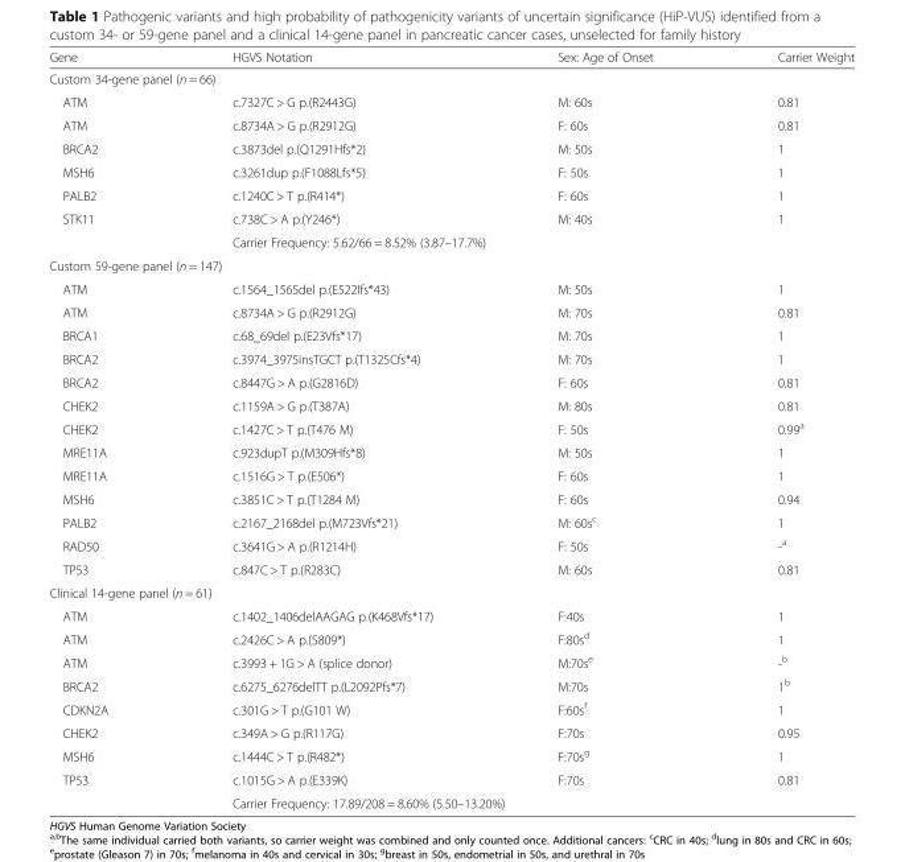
<table><thead><tr><td>Gene</td><td>HGVS Notation</td><td>Sex: Age of Onset</td><td>Carrier Weight</td></tr></thead><tbody><tr><td colspan="4">Custom 34-gene panel (n = 66)</td></tr><tr><td>ATM</td><td>c.7327C &gt; G p.(R2443G)</td><td>M: 60s</td><td>0.81</td></tr><tr><td>ATM</td><td>c.8734A &gt; G p.(R2912G)</td><td>F: 60s</td><td>0.81</td></tr><tr><td>BRCA2</td><td>c.3873del p.(Q1291Hfs*2)</td><td>M: 50s</td><td>1</td></tr><tr><td>MSH6</td><td>c.3261dup p.(F1088Lfs*5)</td><td>F: 50s</td><td>1</td></tr><tr><td>PALB2</td><td>c.1240C &gt; T p.(R414*)</td><td>F: 60s</td><td>1</td></tr><tr><td rowspan="2">STK11</td><td>c.738C &gt; A p.(Y246*)</td><td>M: 40s</td><td>1</td></tr><tr><td colspan="3">Carrier Frequency: 5.62/66 = 8.52% (3.87–17.7%)</td></tr><tr><td colspan="4">Custom 59-gene panel (n = 147)</td></tr><tr><td>ATM</td><td>c.1564_1565del p.(E522Ifs*43)</td><td>M: 50s</td><td>1</td></tr><tr><td>ATM</td><td>c.8734A &gt; G p.(R2912G)</td><td>M: 70s</td><td>0.81</td></tr><tr><td>BRCA1</td><td>c.68_69del p.(E23Vfs*17)</td><td>M: 70s</td><td>1</td></tr><tr><td>BRCA2</td><td>c.3974_3975insTGCT p.(T1325Cfs*4)</td><td>M: 70s</td><td>1</td></tr><tr><td>BRCA2</td><td>c.8447G &gt; A p.(G2816D)</td><td>F: 60s</td><td>0.81</td></tr><tr><td>CHEK2</td><td>c.1159A &gt; G p.(T387A)</td><td>M: 80s</td><td>0.81</td></tr><tr><td>CHEK2</td><td>c.1427C &gt; T p.(T476 M)</td><td>F: 50s</td><td>0.99<sup>a</sup></td></tr><tr><td>MRE11A</td><td>c.923dupT p.(M309Hfs*8)</td><td>M: 50s</td><td>1</td></tr><tr><td>MRE11A</td><td>c.1516G &gt; T p.(E506*)</td><td>F: 60s</td><td>1</td></tr><tr><td>MSH6</td><td>c.3851C &gt; T p.(T1284 M)</td><td>F: 60s</td><td>0.94</td></tr><tr><td>PALB2</td><td>c.2167_2168del p.(M723Vfs*21)</td><td>M: 60s<sup>c</sup></td><td>1</td></tr><tr><td>RAD50</td><td>c.3641G &gt; A p.(R1214H)</td><td>F: 50s</td><td>-<sup>a</sup></td></tr><tr><td>TP53</td><td>c.847C &gt; T p.(R283C)</td><td>M: 60s</td><td>0.81</td></tr><tr><td colspan="4">Clinical 14-gene panel (n = 61)</td></tr><tr><td>ATM</td><td>c.1402_1406delAAGAG p.(K468Vfs*17)</td><td>F:40s</td><td>1</td></tr><tr><td>ATM</td><td>c.2426C &gt; A p.(S809*)</td><td>F:80s<sup>d</sup></td><td>1</td></tr><tr><td>ATM</td><td>c.3993 + 1G &gt; A (splice donor)</td><td>M:70s<sup>e</sup></td><td>-<sup>b</sup></td></tr><tr><td>BRCA2</td><td>c.6275_6276delTT p.(L2092Pfs*7)</td><td>M:70s</td><td>1<sup>b</sup></td></tr><tr><td>CDKN2A</td><td>c.301G &gt; T p.(G101 W)</td><td>F:60s<sup>f</sup></td><td>1</td></tr><tr><td>CHEK2</td><td>c.349A &gt; G p.(R117G)</td><td>F:70s</td><td>0.95</td></tr><tr><td>MSH6</td><td>c.1444C &gt; T p.(R482*)</td><td>F:70s<sup>g</sup></td><td>1</td></tr><tr><td rowspan="2">TP53</td><td>c.1015G &gt; A p.(E339K)</td><td>F:70s</td><td>0.81</td></tr><tr><td colspan="3">Carrier Frequency: 17.89/208 = 8.60% (5.50–13.20%)</td></tr></tbody></table>